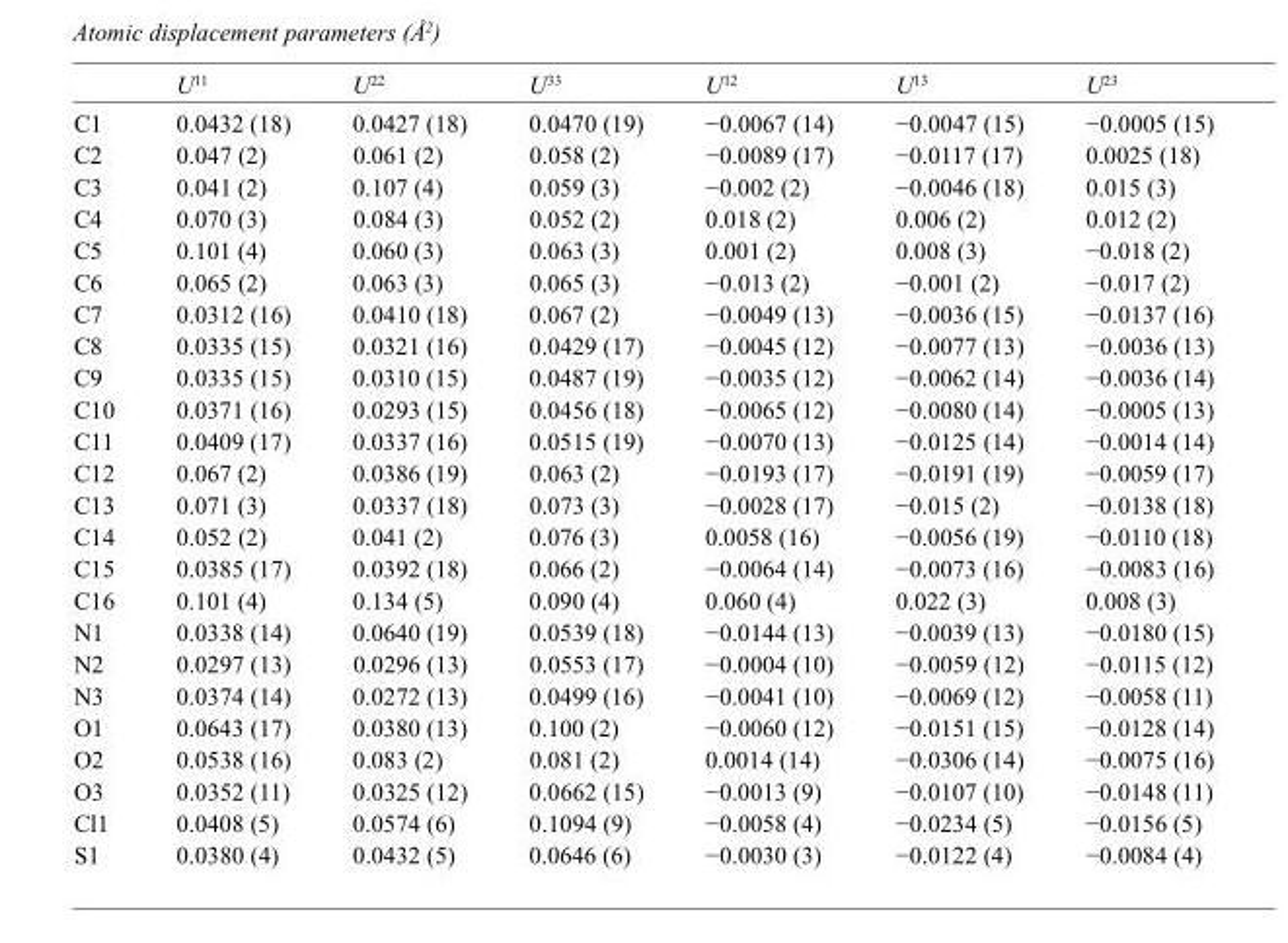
<table><thead><tr><td></td><td>U<sup>11</sup></td><td>U<sup>22</sup></td><td>U<sup>33</sup></td><td>U<sup>12</sup></td><td>U<sup>13</sup></td><td>U<sup>23</sup></td></tr></thead><tbody><tr><td>C1</td><td>0.0432 (18)</td><td>0.0427 (18)</td><td>0.0470 (19)</td><td>−0.0067 (14)</td><td>−0.0047 (15)</td><td>−0.0005 (15)</td></tr><tr><td>C2</td><td>0.047 (2)</td><td>0.061 (2)</td><td>0.058 (2)</td><td>−0.0089 (17)</td><td>−0.0117 (17)</td><td>0.0025 (18)</td></tr><tr><td>C3</td><td>0.041 (2)</td><td>0.107 (4)</td><td>0.059 (3)</td><td>−0.002 (2)</td><td>−0.0046 (18)</td><td>0.015 (3)</td></tr><tr><td>C4</td><td>0.070 (3)</td><td>0.084 (3)</td><td>0.052 (2)</td><td>0.018 (2)</td><td>0.006 (2)</td><td>0.012 (2)</td></tr><tr><td>C5</td><td>0.101 (4)</td><td>0.060 (3)</td><td>0.063 (3)</td><td>0.001 (2)</td><td>0.008 (3)</td><td>−0.018 (2)</td></tr><tr><td>C6</td><td>0.065 (2)</td><td>0.063 (3)</td><td>0.065 (3)</td><td>−0.013 (2)</td><td>−0.001 (2)</td><td>−0.017 (2)</td></tr><tr><td>C7</td><td>0.0312 (16)</td><td>0.0410 (18)</td><td>0.067 (2)</td><td>−0.0049 (13)</td><td>−0.0036 (15)</td><td>−0.0137 (16)</td></tr><tr><td>C8</td><td>0.0335 (15)</td><td>0.0321 (16)</td><td>0.0429 (17)</td><td>−0.0045 (12)</td><td>−0.0077 (13)</td><td>−0.0036 (13)</td></tr><tr><td>C9</td><td>0.0335 (15)</td><td>0.0310 (15)</td><td>0.0487 (19)</td><td>−0.0035 (12)</td><td>−0.0062 (14)</td><td>−0.0036 (14)</td></tr><tr><td>C10</td><td>0.0371 (16)</td><td>0.0293 (15)</td><td>0.0456 (18)</td><td>−0.0065 (12)</td><td>−0.0080 (14)</td><td>−0.0005 (13)</td></tr><tr><td>C11</td><td>0.0409 (17)</td><td>0.0337 (16)</td><td>0.0515 (19)</td><td>−0.0070 (13)</td><td>−0.0125 (14)</td><td>−0.0014 (14)</td></tr><tr><td>C12</td><td>0.067 (2)</td><td>0.0386 (19)</td><td>0.063 (2)</td><td>−0.0193 (17)</td><td>−0.0191 (19)</td><td>−0.0059 (17)</td></tr><tr><td>C13</td><td>0.071 (3)</td><td>0.0337 (18)</td><td>0.073 (3)</td><td>−0.0028 (17)</td><td>−0.015 (2)</td><td>−0.0138 (18)</td></tr><tr><td>C14</td><td>0.052 (2)</td><td>0.041 (2)</td><td>0.076 (3)</td><td>0.0058 (16)</td><td>−0.0056 (19)</td><td>−0.0110 (18)</td></tr><tr><td>C15</td><td>0.0385 (17)</td><td>0.0392 (18)</td><td>0.066 (2)</td><td>−0.0064 (14)</td><td>−0.0073 (16)</td><td>−0.0083 (16)</td></tr><tr><td>C16</td><td>0.101 (4)</td><td>0.134 (5)</td><td>0.090 (4)</td><td>0.060 (4)</td><td>0.022 (3)</td><td>0.008 (3)</td></tr><tr><td>N1</td><td>0.0338 (14)</td><td>0.0640 (19)</td><td>0.0539 (18)</td><td>−0.0144 (13)</td><td>−0.0039 (13)</td><td>−0.0180 (15)</td></tr><tr><td>N2</td><td>0.0297 (13)</td><td>0.0296 (13)</td><td>0.0553 (17)</td><td>−0.0004 (10)</td><td>−0.0059 (12)</td><td>−0.0115 (12)</td></tr><tr><td>N3</td><td>0.0374 (14)</td><td>0.0272 (13)</td><td>0.0499 (16)</td><td>−0.0041 (10)</td><td>−0.0069 (12)</td><td>−0.0058 (11)</td></tr><tr><td>O1</td><td>0.0643 (17)</td><td>0.0380 (13)</td><td>0.100 (2)</td><td>−0.0060 (12)</td><td>−0.0151 (15)</td><td>−0.0128 (14)</td></tr><tr><td>O2</td><td>0.0538 (16)</td><td>0.083 (2)</td><td>0.081 (2)</td><td>0.0014 (14)</td><td>−0.0306 (14)</td><td>−0.0075 (16)</td></tr><tr><td>O3</td><td>0.0352 (11)</td><td>0.0325 (12)</td><td>0.0662 (15)</td><td>−0.0013 (9)</td><td>−0.0107 (10)</td><td>−0.0148 (11)</td></tr><tr><td>Cl1</td><td>0.0408 (5)</td><td>0.0574 (6)</td><td>0.1094 (9)</td><td>−0.0058 (4)</td><td>−0.0234 (5)</td><td>−0.0156 (5)</td></tr><tr><td>S1</td><td>0.0380 (4)</td><td>0.0432 (5)</td><td>0.0646 (6)</td><td>−0.0030 (3)</td><td>−0.0122 (4)</td><td>−0.0084 (4)</td></tr></tbody></table>